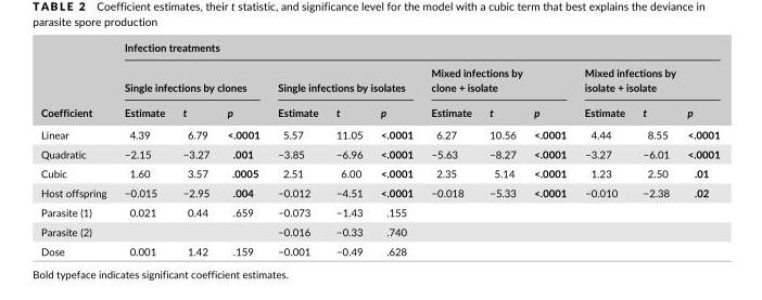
<table><thead><tr><td rowspan="3">Coefficient</td><td colspan="12">Infection treatments</td></tr><tr><td colspan="3">Single infections by clones</td><td colspan="3">Single infections by isolates</td><td colspan="3">Mixed infections by clone + isolate</td><td colspan="3">Mixed infections by isolate + isolate</td></tr><tr><td>Estimate</td><td>t</td><td>p</td><td>Estimate</td><td>t</td><td>p</td><td>Estimate</td><td>t</td><td>p</td><td>Estimate</td><td>t</td><td>p</td></tr></thead><tbody><tr><td>Linear</td><td>4.39</td><td>6.79</td><td>&lt;.0001</td><td>5.57</td><td>11.05</td><td>&lt;.0001</td><td>6.27</td><td>10.56</td><td>&lt;.0001</td><td>4.44</td><td>8.55</td><td>&lt;.0001</td></tr><tr><td>Quadratic</td><td>−2.15</td><td>−3.27</td><td>.001</td><td>−3.85</td><td>−6.96</td><td>&lt;.0001</td><td>−5.63</td><td>−8.27</td><td>&lt;.0001</td><td>−3.27</td><td>−6.01</td><td>&lt;.0001</td></tr><tr><td>Cubic</td><td>1.60</td><td>3.57</td><td>.0005</td><td>2.51</td><td>6.00</td><td>&lt;.0001</td><td>2.35</td><td>5.14</td><td>&lt;.0001</td><td>1.23</td><td>2.50</td><td>.01</td></tr><tr><td>Host offspring</td><td>−0.015</td><td>−2.95</td><td>.004</td><td>−0.012</td><td>−4.51</td><td>&lt;.0001</td><td>−0.018</td><td>−5.33</td><td>&lt;.0001</td><td>−0.010</td><td>−2.38</td><td>.02</td></tr><tr><td>Parasite (1)</td><td>0.021</td><td>0.44</td><td>.659</td><td>−0.073</td><td>−1.43</td><td>.155</td><td></td><td></td><td></td><td></td><td></td><td></td></tr><tr><td>Parasite (2)</td><td></td><td></td><td></td><td>−0.016</td><td>−0.33</td><td>.740</td><td></td><td></td><td></td><td></td><td></td><td></td></tr><tr><td>Dose</td><td>0.001</td><td>1.42</td><td>.159</td><td>−0.001</td><td>−0.49</td><td>.628</td><td></td><td></td><td></td><td></td><td></td><td></td></tr></tbody></table>